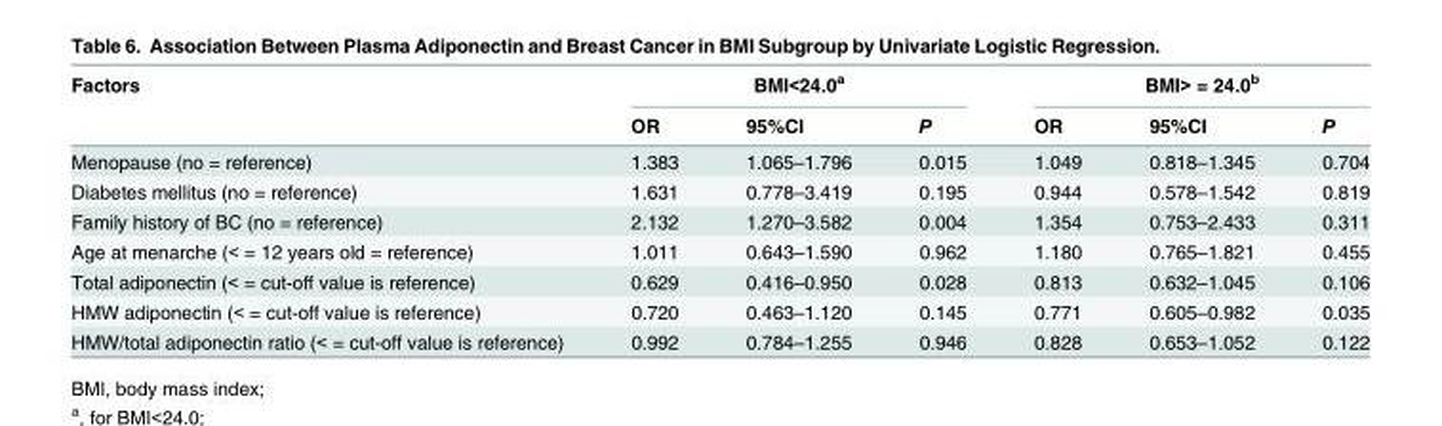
<table><thead><tr><td rowspan="2">Factors</td><td colspan="3">BMI&lt;24.0<sup>a</sup></td><td colspan="3">BMI&gt; = 24.0<sup>b</sup></td></tr><tr><td>OR</td><td>95%CI</td><td>P</td><td>OR</td><td>95%CI</td><td>P</td></tr></thead><tbody><tr><td>Menopause (no = reference)</td><td>1.383</td><td>1.065–1.796</td><td>0.015</td><td>1.049</td><td>0.818–1.345</td><td>0.704</td></tr><tr><td>Diabetes mellitus (no = reference)</td><td>1.631</td><td>0.778–3.419</td><td>0.195</td><td>0.944</td><td>0.578–1.542</td><td>0.819</td></tr><tr><td>Family history of BC (no = reference)</td><td>2.132</td><td>1.270–3.582</td><td>0.004</td><td>1.354</td><td>0.753–2.433</td><td>0.311</td></tr><tr><td>Age at menarche (&lt; = 12 years old = reference)</td><td>1.011</td><td>0.643–1.590</td><td>0.962</td><td>1.180</td><td>0.765–1.821</td><td>0.455</td></tr><tr><td>Total adiponectin (&lt; = cut-off value is reference)</td><td>0.629</td><td>0.416–0.950</td><td>0.028</td><td>0.813</td><td>0.632–1.045</td><td>0.106</td></tr><tr><td>HMW adiponectin (&lt; = cut-off value is reference)</td><td>0.720</td><td>0.463–1.120</td><td>0.145</td><td>0.771</td><td>0.605–0.982</td><td>0.035</td></tr><tr><td>HMW/total adiponectin ratio (&lt; = cut-off value is reference)</td><td>0.992</td><td>0.784–1.255</td><td>0.946</td><td>0.828</td><td>0.653–1.052</td><td>0.122</td></tr></tbody></table>